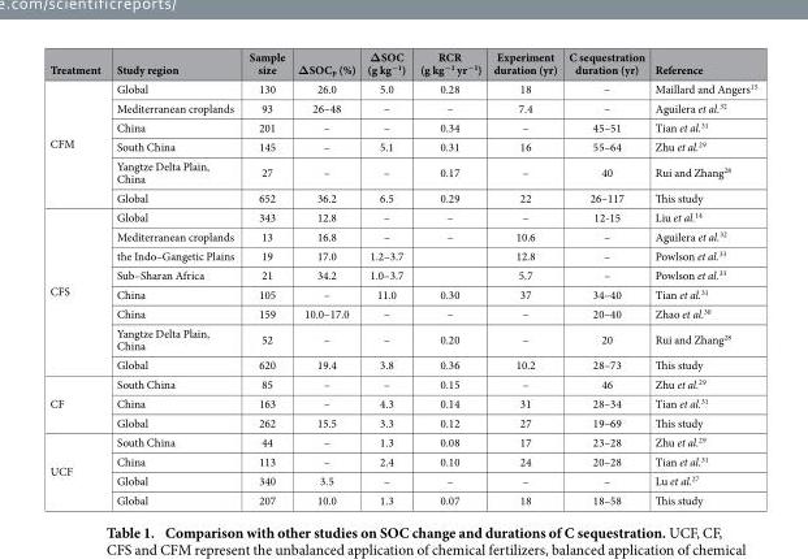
<table><thead><tr><td>Treatment</td><td>Study region</td><td>Sample size</td><td>ΔSOC<sub>P</sub> (%)</td><td>ΔSOC (g kg<sup>−1</sup>)</td><td>RCR (g kg<sup>−1</sup> yr<sup>−1</sup>)</td><td>Experiment duration (yr)</td><td>C sequestration duration (yr)</td><td>Reference</td></tr></thead><tbody><tr><td rowspan="6">CFM</td><td>Global</td><td>130</td><td>26.0</td><td>5.0</td><td>0.28</td><td>18</td><td>–</td><td>Maillard and Angers<sup>15</sup></td></tr><tr><td>Mediterranean croplands</td><td>93</td><td>26–48</td><td>–</td><td>–</td><td>7.4</td><td>–</td><td>Aguilera et al.<sup>32</sup></td></tr><tr><td>China</td><td>201</td><td>–</td><td>–</td><td>0.34</td><td>–</td><td>45–51</td><td>Tian et al.<sup>31</sup></td></tr><tr><td>South China</td><td>145</td><td>–</td><td>5.1</td><td>0.31</td><td>16</td><td>55–64</td><td>Zhu et al.<sup>29</sup></td></tr><tr><td>Yangtze Delta Plain, China</td><td>27</td><td>–</td><td>–</td><td>0.17</td><td>–</td><td>40</td><td>Rui and Zhang<sup>28</sup></td></tr><tr><td>Global</td><td>652</td><td>36.2</td><td>6.5</td><td>0.29</td><td>22</td><td>26–117</td><td>This study</td></tr><tr><td rowspan="8">CFS</td><td>Global</td><td>343</td><td>12.8</td><td>–</td><td>–</td><td>–</td><td>12-15</td><td>Liu et al.<sup>14</sup></td></tr><tr><td>Mediterranean croplands</td><td>13</td><td>16.8</td><td>–</td><td>–</td><td>10.6</td><td>–</td><td>Aguilera et al.<sup>32</sup></td></tr><tr><td>the Indo–Gangetic Plains</td><td>19</td><td>17.0</td><td>1.2–3.7</td><td></td><td>12.8</td><td>–</td><td>Powlson et al.<sup>33</sup></td></tr><tr><td>Sub–Sharan Africa</td><td>21</td><td>34.2</td><td>1.0–3.7</td><td></td><td>5.7</td><td>–</td><td>Powlson et al.<sup>33</sup></td></tr><tr><td>China</td><td>105</td><td>–</td><td>11.0</td><td>0.30</td><td>37</td><td>34–40</td><td>Tian et al.<sup>31</sup></td></tr><tr><td>China</td><td>159</td><td>10.0–17.0</td><td>–</td><td>–</td><td>–</td><td>20–40</td><td>Zhao et al.<sup>30</sup></td></tr><tr><td>Yangtze Delta Plain, China</td><td>52</td><td>–</td><td>–</td><td>0.20</td><td>–</td><td>20</td><td>Rui and Zhang<sup>28</sup></td></tr><tr><td>Global</td><td>620</td><td>19.4</td><td>3.8</td><td>0.36</td><td>10.2</td><td>28–73</td><td>This study</td></tr><tr><td rowspan="3">CF</td><td>South China</td><td>85</td><td>–</td><td>–</td><td>0.15</td><td>–</td><td>46</td><td>Zhu et al.<sup>29</sup></td></tr><tr><td>China</td><td>163</td><td>–</td><td>4.3</td><td>0.14</td><td>31</td><td>28–34</td><td>Tian et al.<sup>31</sup></td></tr><tr><td>Global</td><td>262</td><td>15.5</td><td>3.3</td><td>0.12</td><td>27</td><td>19–69</td><td>This study</td></tr><tr><td rowspan="4">UCF</td><td>South China</td><td>44</td><td>–</td><td>1.3</td><td>0.08</td><td>17</td><td>23–28</td><td>Zhu et al.<sup>29</sup></td></tr><tr><td>China</td><td>113</td><td>–</td><td>2.4</td><td>0.10</td><td>24</td><td>20–28</td><td>Tian et al.<sup>31</sup></td></tr><tr><td>Global</td><td>340</td><td>3.5</td><td>–</td><td>–</td><td>–</td><td>–</td><td>Lu et al.<sup>27</sup></td></tr><tr><td>Global</td><td>207</td><td>10.0</td><td>1.3</td><td>0.07</td><td>18</td><td>18–58</td><td>This study</td></tr></tbody></table>